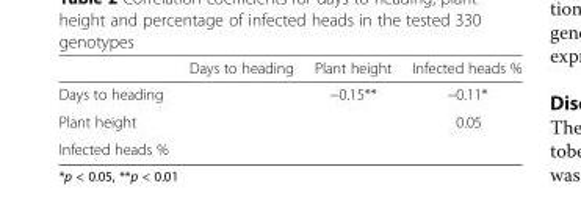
<table><thead><tr><td></td><td>Days to heading</td><td>Plant height</td><td>Infected heads %</td></tr></thead><tbody><tr><td>Days to heading</td><td></td><td>−0.15**</td><td>−0.11*</td></tr><tr><td>Plant height</td><td></td><td></td><td>0.05</td></tr><tr><td>Infected heads %</td><td></td><td></td><td></td></tr></tbody></table>